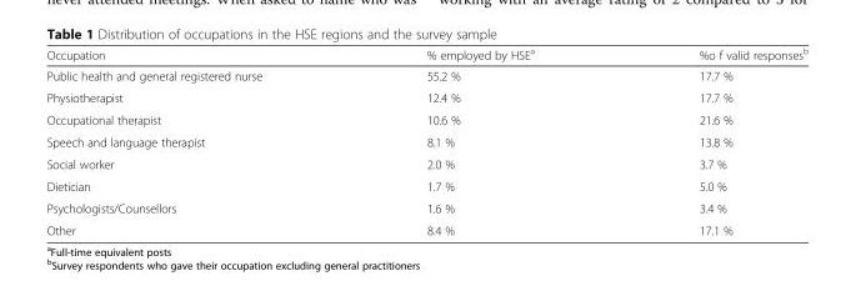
<table><thead><tr><td>Occupation</td><td>% employed by HSE<sup>a</sup></td><td>%o f valid responses<sup>b</sup></td></tr></thead><tbody><tr><td>Public health and general registered nurse</td><td>55.2 %</td><td>17.7 %</td></tr><tr><td>Physiotherapist</td><td>12.4 %</td><td>17.7 %</td></tr><tr><td>Occupational therapist</td><td>10.6 %</td><td>21.6 %</td></tr><tr><td>Speech and language therapist</td><td>8.1 %</td><td>13.8 %</td></tr><tr><td>Social worker</td><td>2.0 %</td><td>3.7 %</td></tr><tr><td>Dietician</td><td>1.7 %</td><td>5.0 %</td></tr><tr><td>Psychologists/Counsellors</td><td>1.6 %</td><td>3.4 %</td></tr><tr><td>Other</td><td>8.4 %</td><td>17.1 %</td></tr></tbody></table>